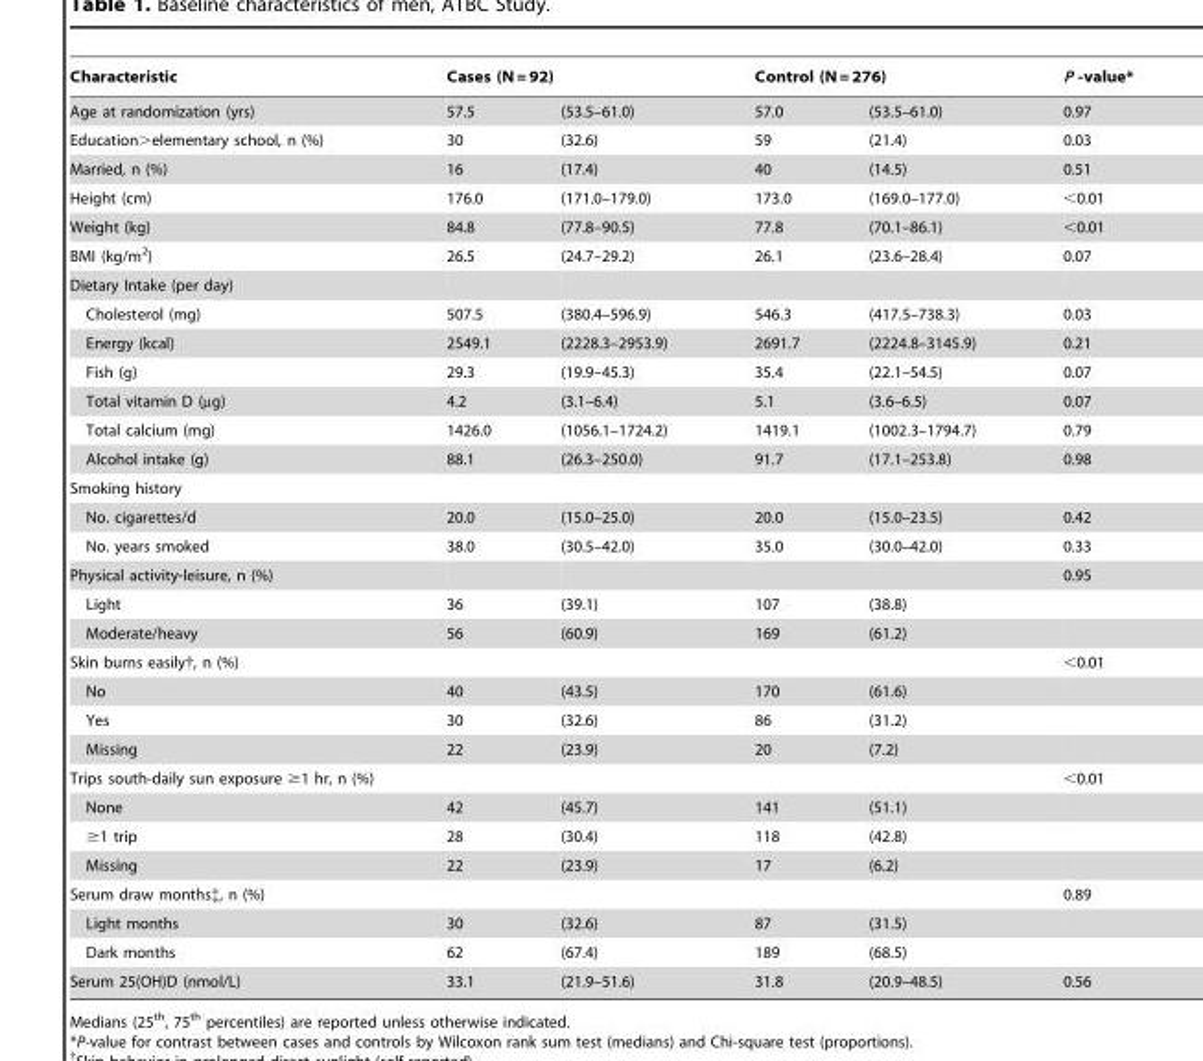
<table><thead><tr><td rowspan="2">Characteristic Age at randomization (yrs)</td><td colspan="2">Cases (N = 92)</td><td colspan="2">Control (N = 276)</td><td rowspan="2">P -value* 0.97</td></tr><tr><td>57.5</td><td>(53.5–61.0)</td><td>57.0</td><td>(53.5–61.0)</td></tr></thead><tbody><tr><td>Education&gt;elementary school, n (%)</td><td>30</td><td>(32.6)</td><td>59</td><td>(21.4)</td><td>0.03</td></tr><tr><td>Married, n (%)</td><td>16</td><td>(17.4)</td><td>40</td><td>(14.5)</td><td>0.51</td></tr><tr><td>Height (cm)</td><td>176.0</td><td>(171.0–179.0)</td><td>173.0</td><td>(169.0–177.0)</td><td>&lt;0.01</td></tr><tr><td>Weight (kg)</td><td>84.8</td><td>(77.8–90.5)</td><td>77.8</td><td>(70.1–86.1)</td><td>&lt;0.01</td></tr><tr><td>BMI (kg/m<sup>2</sup>)</td><td>26.5</td><td>(24.7–29.2)</td><td>26.1</td><td>(23.6–28.4)</td><td>0.07</td></tr><tr><td colspan="6">Dietary Intake (per day)</td></tr><tr><td>Cholesterol (mg)</td><td>507.5</td><td>(380.4–596.9)</td><td>546.3</td><td>(417.5–738.3)</td><td>0.03</td></tr><tr><td>Energy (kcal)</td><td>2549.1</td><td>(2228.3–2953.9)</td><td>2691.7</td><td>(2224.8–3145.9)</td><td>0.21</td></tr><tr><td>Fish (g)</td><td>29.3</td><td>(19.9–45.3)</td><td>35.4</td><td>(22.1–54.5)</td><td>0.07</td></tr><tr><td>Total vitamin D (µg)</td><td>4.2</td><td>(3.1–6.4)</td><td>5.1</td><td>(3.6–6.5)</td><td>0.07</td></tr><tr><td>Total calcium (mg)</td><td>1426.0</td><td>(1056.1–1724.2)</td><td>1419.1</td><td>(1002.3–1794.7)</td><td>0.79</td></tr><tr><td>Alcohol intake (g)</td><td>88.1</td><td>(26.3–250.0)</td><td>91.7</td><td>(17.1–253.8)</td><td>0.98</td></tr><tr><td colspan="6">Smoking history</td></tr><tr><td>No. cigarettes/d</td><td>20.0</td><td>(15.0–25.0)</td><td>20.0</td><td>(15.0–23.5)</td><td>0.42</td></tr><tr><td>No. years smoked</td><td>38.0</td><td>(30.5–42.0)</td><td>35.0</td><td>(30.0–42.0)</td><td>0.33</td></tr><tr><td>Physical activity-leisure, n (%)</td><td></td><td></td><td></td><td></td><td>0.95</td></tr><tr><td>Light</td><td>36</td><td>(39.1)</td><td>107</td><td>(38.8)</td><td></td></tr><tr><td>Moderate/heavy</td><td>56</td><td>(60.9)</td><td>169</td><td>(61.2)</td><td></td></tr><tr><td>Skin burns easily†, n (%)</td><td></td><td></td><td></td><td></td><td>&lt;0.01</td></tr><tr><td>No</td><td>40</td><td>(43.5)</td><td>170</td><td>(61.6)</td><td></td></tr><tr><td>Yes</td><td>30</td><td>(32.6)</td><td>86</td><td>(31.2)</td><td></td></tr><tr><td>Missing</td><td>22</td><td>(23.9)</td><td>20</td><td>(7.2)</td><td></td></tr><tr><td>Trips south-daily sun exposure ≥1 hr, n (%)</td><td></td><td></td><td></td><td></td><td>&lt;0.01</td></tr><tr><td>None</td><td>42</td><td>(45.7)</td><td>141</td><td>(51.1)</td><td></td></tr><tr><td>≥1 trip</td><td>28</td><td>(30.4)</td><td>118</td><td>(42.8)</td><td></td></tr><tr><td>Missing</td><td>22</td><td>(23.9)</td><td>17</td><td>(6.2)</td><td></td></tr><tr><td>Serum draw months‡, n (%)</td><td></td><td></td><td></td><td></td><td>0.89</td></tr><tr><td>Light months</td><td>30</td><td>(32.6)</td><td>87</td><td>(31.5)</td><td></td></tr><tr><td>Dark months</td><td>62</td><td>(67.4)</td><td>189</td><td>(68.5)</td><td></td></tr><tr><td>Serum 25(OH)D (nmol/L)</td><td>33.1</td><td>(21.9–51.6)</td><td>31.8</td><td>(20.9–48.5)</td><td>0.56</td></tr></tbody></table>